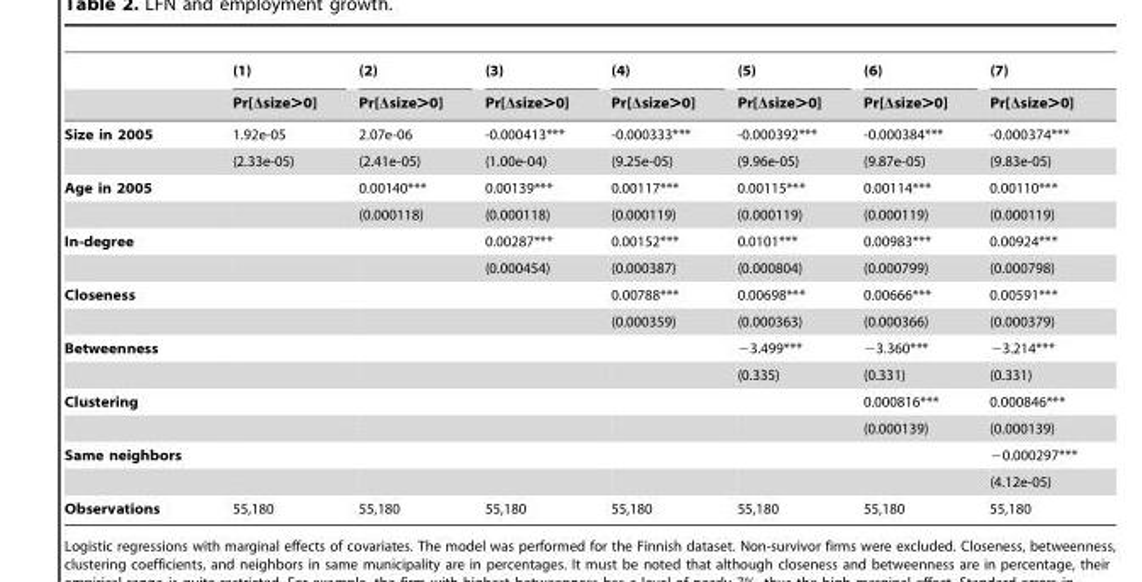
<table><thead><tr><td rowspan="2"></td><td rowspan="2">(1) Pr[Δsize&gt;0]</td><td rowspan="2">(2) Pr[Δsize&gt;0]</td><td rowspan="2">(3) Pr[Δsize&gt;0]</td><td rowspan="2">(4) Pr[Δsize&gt;0]</td><td rowspan="2">(5) Pr[Δsize&gt;0]</td><td rowspan="2">(6) Pr[Δsize&gt;0]</td><td rowspan="2">(7) Pr[Δsize&gt;0]</td></tr><tr></tr></thead><tbody><tr><td rowspan="2">Size in 2005</td><td>1.92e-05</td><td>2.07e-06</td><td>-0.000413***</td><td>-0.000333***</td><td>-0.000392***</td><td>-0.000384***</td><td>-0.000374***</td></tr><tr><td>(2.33e-05)</td><td>(2.41e-05)</td><td>(1.00e-04)</td><td>(9.25e-05)</td><td>(9.96e-05)</td><td>(9.87e-05)</td><td>(9.83e-05)</td></tr><tr><td rowspan="2">Age in 2005</td><td></td><td>0.00140***</td><td>0.00139***</td><td>0.00117***</td><td>0.00115***</td><td>0.00114***</td><td>0.00110***</td></tr><tr><td></td><td>(0.000118)</td><td>(0.000118)</td><td>(0.000119)</td><td>(0.000119)</td><td>(0.000119)</td><td>(0.000119)</td></tr><tr><td rowspan="2">In-degree</td><td></td><td></td><td>0.00287***</td><td>0.00152***</td><td>0.0101***</td><td>0.00983***</td><td>0.00924***</td></tr><tr><td></td><td></td><td>(0.000454)</td><td>(0.000387)</td><td>(0.000804)</td><td>(0.000799)</td><td>(0.000798)</td></tr><tr><td rowspan="2">Closeness</td><td></td><td></td><td></td><td>0.00788***</td><td>0.00698***</td><td>0.00666***</td><td>0.00591***</td></tr><tr><td></td><td></td><td></td><td>(0.000359)</td><td>(0.000363)</td><td>(0.000366)</td><td>(0.000379)</td></tr><tr><td rowspan="2">Betweenness</td><td></td><td></td><td></td><td></td><td>−3.499***</td><td>−3.360***</td><td>−3.214***</td></tr><tr><td></td><td></td><td></td><td></td><td>(0.335)</td><td>(0.331)</td><td>(0.331)</td></tr><tr><td rowspan="2">Clustering</td><td></td><td></td><td></td><td></td><td></td><td>0.000816***</td><td>0.000846***</td></tr><tr><td></td><td></td><td></td><td></td><td></td><td>(0.000139)</td><td>(0.000139)</td></tr><tr><td rowspan="2">Same neighbors</td><td></td><td></td><td></td><td></td><td></td><td></td><td>−0.000297***</td></tr><tr><td></td><td></td><td></td><td></td><td></td><td></td><td>(4.12e-05)</td></tr><tr><td>Observations</td><td>55,180</td><td>55,180</td><td>55,180</td><td>55,180</td><td>55,180</td><td>55,180</td><td>55,180</td></tr></tbody></table>